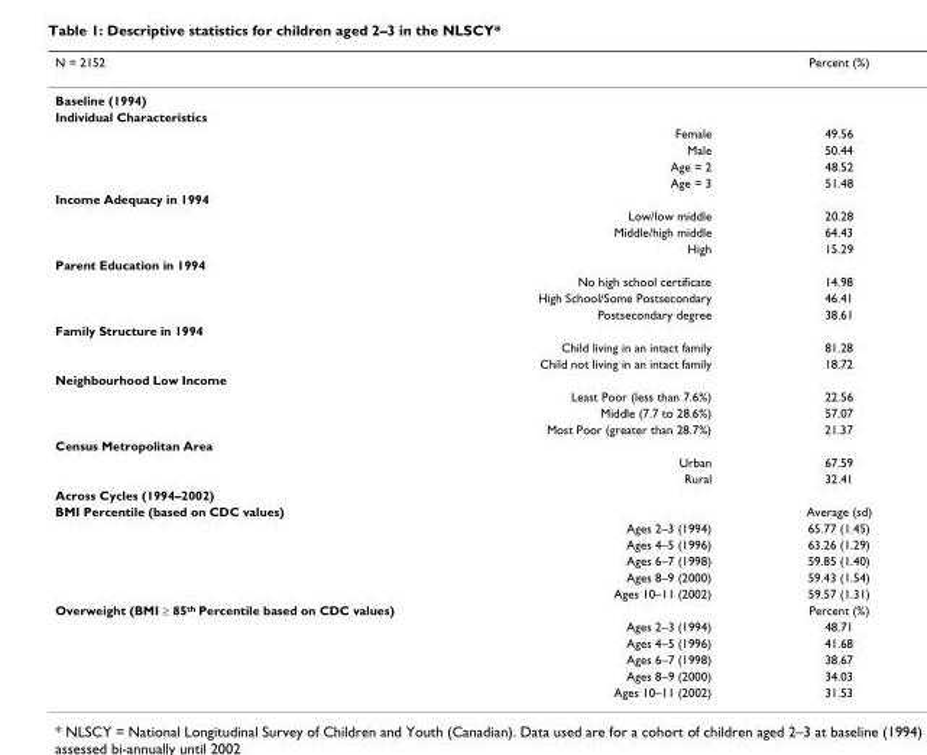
<table><thead><tr><td>N = 2152</td><td>Percent (%)</td></tr></thead><tbody><tr><td colspan="2">Baseline (1994)</td></tr><tr><td colspan="2">Individual Characteristics</td></tr><tr><td>Female</td><td>49.56</td></tr><tr><td>Male</td><td>50.44</td></tr><tr><td>Age = 2</td><td>48.52</td></tr><tr><td>Age = 3</td><td>51.48</td></tr><tr><td colspan="2">Income Adequacy in 1994</td></tr><tr><td>Low/low middle</td><td>20.28</td></tr><tr><td>Middle/high middle</td><td>64.43</td></tr><tr><td>High</td><td>15.29</td></tr><tr><td colspan="2">Parent Education in 1994</td></tr><tr><td>No high school certificate</td><td>14.98</td></tr><tr><td>High School/Some Postsecondary</td><td>46.41</td></tr><tr><td>Postsecondary degree</td><td>38.61</td></tr><tr><td colspan="2">Family Structure in 1994</td></tr><tr><td>Child living in an intact family</td><td>81.28</td></tr><tr><td>Child not living in an intact family</td><td>18.72</td></tr><tr><td colspan="2">Neighbourhood Low Income</td></tr><tr><td>Least Poor (less than 7.6%)</td><td>22.56</td></tr><tr><td>Middle (7.7 to 28.6%)</td><td>57.07</td></tr><tr><td>Most Poor (greater than 28.7%)</td><td>21.37</td></tr><tr><td colspan="2">Census Metropolitan Area</td></tr><tr><td>Urban</td><td>67.59</td></tr><tr><td>Rural</td><td>32.41</td></tr><tr><td colspan="2">Across Cycles (1994–2002)</td></tr><tr><td>BMI Percentile (based on CDC values)</td><td>Average (sd)</td></tr><tr><td>Ages 2–3 (1994)</td><td>65.77 (1.45)</td></tr><tr><td>Ages 4–5 (1996)</td><td>63.26 (1.29)</td></tr><tr><td>Ages 6–7 (1998)</td><td>59.85 (1.40)</td></tr><tr><td>Ages 8–9 (2000)</td><td>59.43 (1.54)</td></tr><tr><td>Ages 10–11 (2002)</td><td>59.57 (1.31)</td></tr><tr><td>Overweight (BMI ≥ 85<sup>th</sup> Percentile based on CDC values)</td><td>Percent (%)</td></tr><tr><td>Ages 2–3 (1994)</td><td>48.71</td></tr><tr><td>Ages 4–5 (1996)</td><td>41.68</td></tr><tr><td>Ages 6–7 (1998)</td><td>38.67</td></tr><tr><td>Ages 8–9 (2000)</td><td>34.03</td></tr><tr><td>Ages 10–11 (2002)</td><td>31.53</td></tr></tbody></table>